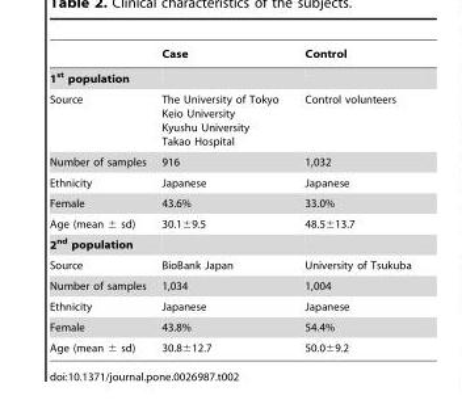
<table><thead><tr><td></td><td>Case</td><td>Control</td></tr></thead><tbody><tr><td colspan="3">1<sup>st</sup> population</td></tr><tr><td>Source</td><td>The University of Tokyo Keio University Kyushu University Takao Hospital</td><td>Control volunteers</td></tr><tr><td>Number of samples</td><td>916</td><td>1,032</td></tr><tr><td>Ethnicity</td><td>Japanese</td><td>Japanese</td></tr><tr><td>Female</td><td>43.6%</td><td>33.0%</td></tr><tr><td>Age (mean ± sd)</td><td>30.1±9.5</td><td>48.5±13.7</td></tr><tr><td colspan="3">2<sup>nd</sup> population</td></tr><tr><td>Source</td><td>BioBank Japan</td><td>University of Tsukuba</td></tr><tr><td>Number of samples</td><td>1,034</td><td>1,004</td></tr><tr><td>Ethnicity</td><td>Japanese</td><td>Japanese</td></tr><tr><td>Female</td><td>43.8%</td><td>54.4%</td></tr><tr><td>Age (mean ± sd)</td><td>30.8±12.7</td><td>50.0±9.2</td></tr></tbody></table>